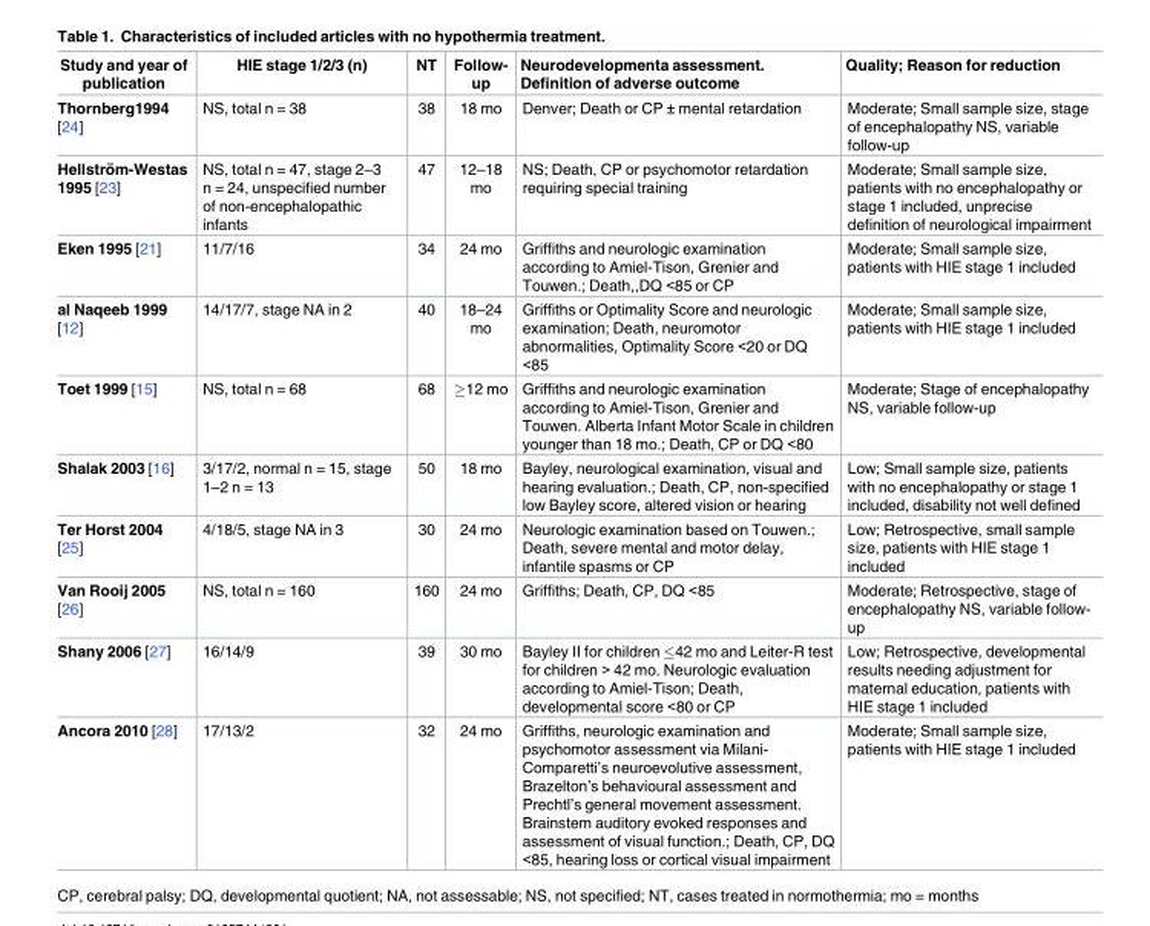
<table><thead><tr><td>Study and year of publication</td><td>HIE stage 1/2/3 (n)</td><td>NT</td><td>Follow- up</td><td>Neurodevelopmenta assessment. Definition of adverse outcome</td><td>Quality; Reason for reduction</td></tr></thead><tbody><tr><td>Thornberg1994 [24]</td><td>NS, total n = 38</td><td>38</td><td>18 mo</td><td>Denver; Death or CP ± mental retardation</td><td>Moderate; Small sample size, stage of encephalopathy NS, variable follow-up</td></tr><tr><td>Hellstro¨m-Westas 1995 [23]</td><td>NS, total n = 47, stage 2–3 n = 24, unspecified number of non-encephalopathic infants</td><td>47</td><td>12–18 mo</td><td>NS; Death, CP or psychomotor retardation requiring special training</td><td>Moderate; Small sample size, patients with no encephalopathy or stage 1 included, unprecise definition of neurological impairment</td></tr><tr><td>Eken 1995 [21]</td><td>11/7/16</td><td>34</td><td>24 mo</td><td>Griffiths and neurologic examination according to Amiel-Tison, Grenier and Touwen.; Death,,DQ &lt;85 or CP</td><td>Moderate; Small sample size, patients with HIE stage 1 included</td></tr><tr><td>al Naqeeb 1999 [12]</td><td>14/17/7, stage NA in 2</td><td>40</td><td>18–24 mo</td><td>Griffiths or Optimality Score and neurologic examination; Death, neuromotor abnormalities, Optimality Score &lt;20 or DQ &lt;85</td><td>Moderate; Small sample size, patients with HIE stage 1 included</td></tr><tr><td>Toet 1999 [15]</td><td>NS, total n = 68</td><td>68</td><td>≥12 mo</td><td>Griffiths and neurologic examination according to Amiel-Tison, Grenier and Touwen. Alberta Infant Motor Scale in children younger than 18 mo.; Death, CP or DQ &lt;80</td><td>Moderate; Stage of encephalopathy NS, variable follow-up</td></tr><tr><td>Shalak 2003 [16]</td><td>3/17/2, normal n = 15, stage 1–2 n = 13</td><td>50</td><td>18 mo</td><td>Bayley, neurological examination, visual and hearing evaluation.; Death, CP, non-specified low Bayley score, altered vision or hearing</td><td>Low; Small sample size, patients with no encephalopathy or stage 1 included, disability not well defined</td></tr><tr><td>Ter Horst 2004 [25]</td><td>4/18/5, stage NA in 3</td><td>30</td><td>24 mo</td><td>Neurologic examination based on Touwen.; Death, severe mental and motor delay, infantile spasms or CP</td><td>Low; Retrospective, small sample size, patients with HIE stage 1 included</td></tr><tr><td>Van Rooij 2005 [26]</td><td>NS, total n = 160</td><td>160</td><td>24 mo</td><td>Griffiths; Death, CP, DQ &lt;85</td><td>Moderate; Retrospective, stage of encephalopathy NS, variable follow- up</td></tr><tr><td>Shany 2006 [27]</td><td>16/14/9</td><td>39</td><td>30 mo</td><td>Bayley II for children ≤42 mo and Leiter-R test for children &gt; 42 mo. Neurologic evaluation according to Amiel-Tison; Death, developmental score &lt;80 or CP</td><td>Low; Retrospective, developmental results needing adjustment for maternal education, patients with HIE stage 1 included</td></tr><tr><td>Ancora 2010 [28]</td><td>17/13/2</td><td>32</td><td>24 mo</td><td>Griffiths, neurologic examination and psychomotor assessment via Milani- Comparetti’s neuroevolutive assessment, Brazelton’s behavioural assessment and Prechtl’s general movement assessment. Brainstem auditory evoked responses and assessment of visual function.; Death, CP, DQ &lt;85, hearing loss or cortical visual impairment</td><td>Moderate; Small sample size, patients with HIE stage 1 included</td></tr></tbody></table>